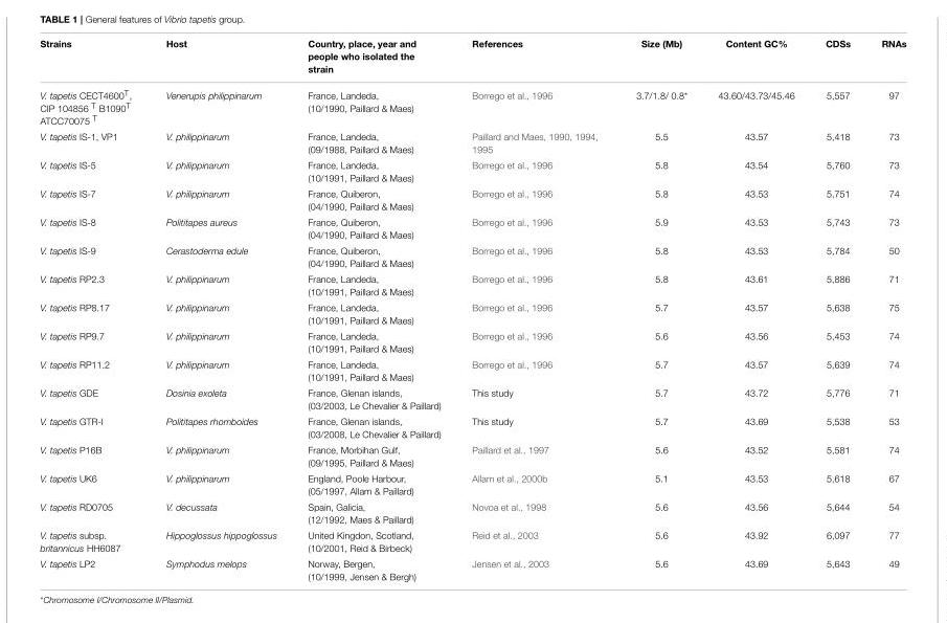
<table><thead><tr><td>Strains</td><td>Host</td><td>Country, place, year and people who isolated the strain</td><td>References</td><td>Size (Mb)</td><td>Content GC%</td><td>CDSs</td><td>RNAs</td></tr></thead><tbody><tr><td>V. tapetis CECT4600<sup>T</sup>, CIP 104856 <sup>T</sup> B1090<sup>T</sup> ATCC70075 <sup>T</sup></td><td>Venerupis philippinarum</td><td>France, Landeda, (10/1990, Paillard &amp; Maes)</td><td>Borrego et al., 1996</td><td>3.7/1.8/ 0.8*</td><td>43.60/43.73/45.46</td><td>5,557</td><td>97</td></tr><tr><td>V. tapetis IS-1, VP1</td><td>V. philippinarum</td><td>France, Landeda, (09/1988, Paillard &amp; Maes)</td><td>Paillard and Maes, 1990, 1994, 1995</td><td>5.5</td><td>43.57</td><td>5,418</td><td>73</td></tr><tr><td>V. tapetis IS-5</td><td>V. philippinarum</td><td>France, Landeda, (10/1991, Paillard &amp; Maes)</td><td>Borrego et al., 1996</td><td>5.8</td><td>43.54</td><td>5,760</td><td>73</td></tr><tr><td>V. tapetis IS-7</td><td>V. philippinarum</td><td>France, Quiberon, (04/1990, Paillard &amp; Maes)</td><td>Borrego et al., 1996</td><td>5.8</td><td>43.53</td><td>5,751</td><td>74</td></tr><tr><td>V. tapetis IS-8</td><td>Polititapes aureus</td><td>France, Quiberon, (04/1990, Paillard &amp; Maes)</td><td>Borrego et al., 1996</td><td>5.9</td><td>43.53</td><td>5,743</td><td>73</td></tr><tr><td>V. tapetis IS-9</td><td>Cerastoderma edule</td><td>France, Quiberon, (04/1990, Paillard &amp; Maes)</td><td>Borrego et al., 1996</td><td>5.8</td><td>43.53</td><td>5,784</td><td>50</td></tr><tr><td>V. tapetis RP2.3</td><td>V. philippinarum</td><td>France, Landeda, (10/1991, Paillard &amp; Maes)</td><td>Borrego et al., 1996</td><td>5.8</td><td>43.61</td><td>5,886</td><td>71</td></tr><tr><td>V. tapetis RP8.17</td><td>V. philippinarum</td><td>France, Landeda, (10/1991, Paillard &amp; Maes)</td><td>Borrego et al., 1996</td><td>5.7</td><td>43.57</td><td>5,638</td><td>75</td></tr><tr><td>V. tapetis RP9.7</td><td>V. philippinarum</td><td>France, Landeda, (10/1991, Paillard &amp; Maes)</td><td>Borrego et al., 1996</td><td>5.6</td><td>43.56</td><td>5,453</td><td>74</td></tr><tr><td>V. tapetis RP11.2</td><td>V. philippinarum</td><td>France, Landeda, (10/1991, Paillard &amp; Maes)</td><td>Borrego et al., 1996</td><td>5.7</td><td>43.57</td><td>5,639</td><td>74</td></tr><tr><td>V. tapetis GDE</td><td>Dosinia exoleta</td><td>France, Glenan islands, (03/2003, Le Chevalier &amp; Paillard)</td><td>This study</td><td>5.7</td><td>43.72</td><td>5,776</td><td>71</td></tr><tr><td>V. tapetis GTR-I</td><td>Polititapes rhomboides</td><td>France, Glenan islands, (03/2008, Le Chevalier &amp; Paillard)</td><td>This study</td><td>5.7</td><td>43.69</td><td>5,538</td><td>53</td></tr><tr><td>V. tapetis P16B</td><td>V. philippinarum</td><td>France, Morbihan Gulf, (09/1995, Paillard &amp; Maes)</td><td>Paillard et al., 1997</td><td>5.6</td><td>43.52</td><td>5,581</td><td>74</td></tr><tr><td>V. tapetis UK6</td><td>V. philippinarum</td><td>England, Poole Harbour, (05/1997, Allam &amp; Paillard)</td><td>Allam et al., 2000b</td><td>5.1</td><td>43.53</td><td>5,618</td><td>67</td></tr><tr><td>V. tapetis RD0705</td><td>V. decussata</td><td>Spain, Galicia, (12/1992, Maes &amp; Paillard)</td><td>Novoa et al., 1998</td><td>5.6</td><td>43.56</td><td>5,644</td><td>54</td></tr><tr><td>V. tapetis subsp. britannicus HH6087</td><td>Hippoglossus hippoglossus</td><td>United Kingdon, Scotland, (10/2001, Reid &amp; Birbeck)</td><td>Reid et al., 2003</td><td>5.6</td><td>43.92</td><td>6,097</td><td>77</td></tr><tr><td>V. tapetis LP2</td><td>Symphodus melops</td><td>Norway, Bergen, (10/1999, Jensen &amp; Bergh)</td><td>Jensen et al., 2003</td><td>5.6</td><td>43.69</td><td>5,643</td><td>49</td></tr></tbody></table>